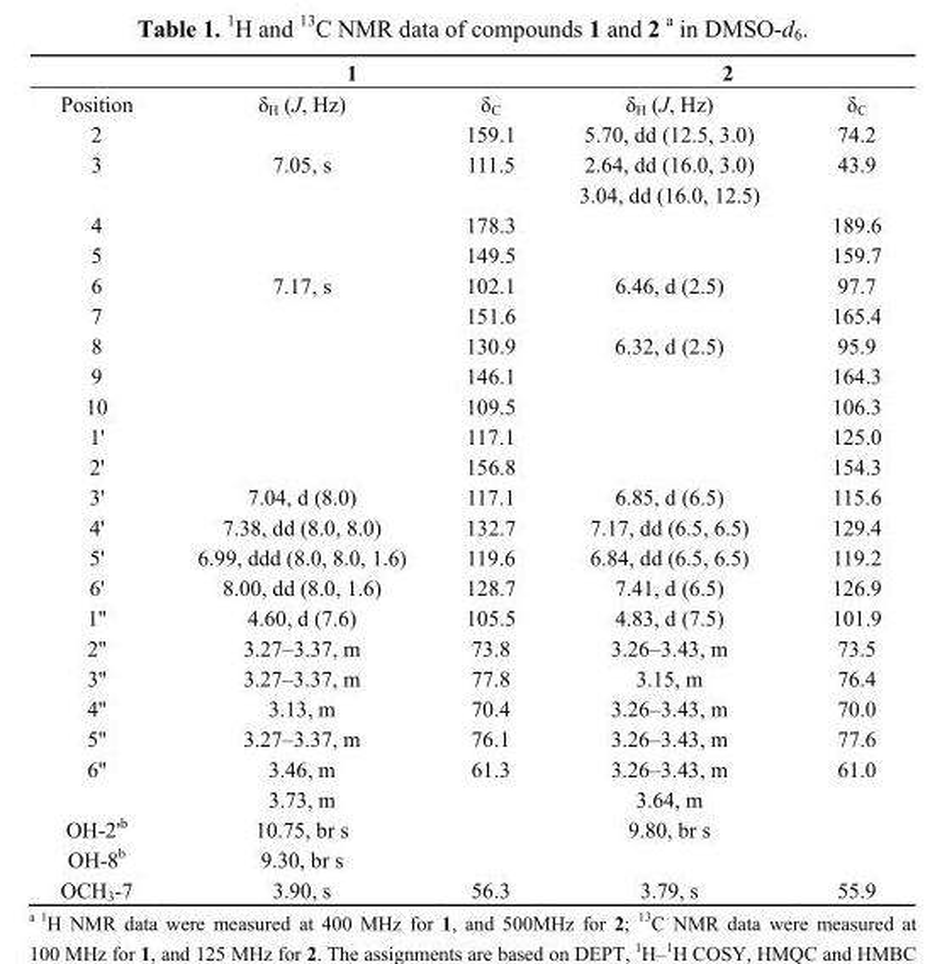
<table><thead><tr><td rowspan="2">Position</td><td colspan="2">1</td><td colspan="2">2</td></tr><tr><td>δ<sub>H</sub> (J, Hz)</td><td>δ<sub>C</sub></td><td>δ<sub>H</sub> (J, Hz)</td><td>δ<sub>C</sub></td></tr></thead><tbody><tr><td>2</td><td></td><td>159.1</td><td>5.70, dd (12.5, 3.0)</td><td>74.2</td></tr><tr><td rowspan="2">3</td><td>7.05, s</td><td>111.5</td><td>2.64, dd (16.0, 3.0)</td><td>43.9</td></tr><tr><td></td><td></td><td>3.04, dd (16.0, 12.5)</td><td></td></tr><tr><td>4</td><td></td><td>178.3</td><td></td><td>189.6</td></tr><tr><td>5</td><td></td><td>149.5</td><td></td><td>159.7</td></tr><tr><td>6</td><td>7.17, s</td><td>102.1</td><td>6.46, d (2.5)</td><td>97.7</td></tr><tr><td>7</td><td></td><td>151.6</td><td></td><td>165.4</td></tr><tr><td>8</td><td></td><td>130.9</td><td>6.32, d (2.5)</td><td>95.9</td></tr><tr><td>9</td><td></td><td>146.1</td><td></td><td>164.3</td></tr><tr><td>10</td><td></td><td>109.5</td><td></td><td>106.3</td></tr><tr><td>1&#x27;</td><td></td><td>117.1</td><td></td><td>125.0</td></tr><tr><td>2&#x27;</td><td></td><td>156.8</td><td></td><td>154.3</td></tr><tr><td>3&#x27;</td><td>7.04, d (8.0)</td><td>117.1</td><td>6.85, d (6.5)</td><td>115.6</td></tr><tr><td>4&#x27;</td><td>7.38, dd (8.0, 8.0)</td><td>132.7</td><td>7.17, dd (6.5, 6.5)</td><td>129.4</td></tr><tr><td>5&#x27;</td><td>6.99, ddd (8.0, 8.0, 1.6)</td><td>119.6</td><td>6.84, dd (6.5, 6.5)</td><td>119.2</td></tr><tr><td>6&#x27;</td><td>8.00, dd (8.0, 1.6)</td><td>128.7</td><td>7.41, d (6.5)</td><td>126.9</td></tr><tr><td>1&#x27;&#x27;</td><td>4.60, d (7.6)</td><td>105.5</td><td>4.83, d (7.5)</td><td>101.9</td></tr><tr><td>2&#x27;&#x27;</td><td>3.27–3.37, m</td><td>73.8</td><td>3.26–3.43, m</td><td>73.5</td></tr><tr><td>3&#x27;&#x27;</td><td>3.27–3.37, m</td><td>77.8</td><td>3.15, m</td><td>76.4</td></tr><tr><td>4&#x27;&#x27;</td><td>3.13, m</td><td>70.4</td><td>3.26–3.43, m</td><td>70.0</td></tr><tr><td>5&#x27;&#x27;</td><td>3.27–3.37, m</td><td>76.1</td><td>3.26–3.43, m</td><td>77.6</td></tr><tr><td rowspan="2">6&#x27;&#x27;</td><td>3.46, m</td><td>61.3</td><td>3.26–3.43, m</td><td>61.0</td></tr><tr><td>3.73, m</td><td></td><td>3.64, m</td><td></td></tr><tr><td>OH-2&#x27;<sup>b</sup></td><td>10.75, br s</td><td></td><td>9.80, br s</td><td></td></tr><tr><td>OH-8<sup>b</sup></td><td>9.30, br s</td><td></td><td></td><td></td></tr><tr><td>OCH<sub>3</sub>-7</td><td>3.90, s</td><td>56.3</td><td>3.79, s</td><td>55.9</td></tr></tbody></table>